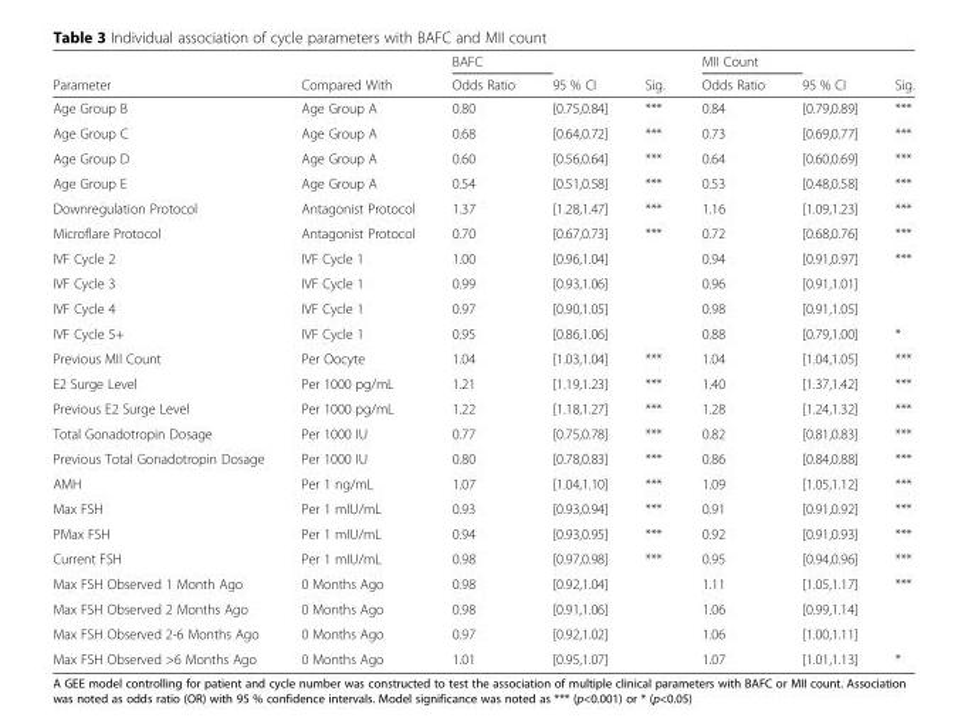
<table><thead><tr><td rowspan="2">Parameter</td><td rowspan="2">Compared With</td><td rowspan="2">BAFC Odds Ratio</td><td rowspan="2">95 % CI</td><td rowspan="2">Sig.</td><td rowspan="2">MII Count Odds Ratio</td><td rowspan="2">95 % CI</td><td rowspan="2">Sig.</td></tr><tr></tr></thead><tbody><tr><td>Age Group B</td><td>Age Group A</td><td>0.80</td><td>[0.75,0.84]</td><td>***</td><td>0.84</td><td>[0.79,0.89]</td><td>***</td></tr><tr><td>Age Group C</td><td>Age Group A</td><td>0.68</td><td>[0.64,0.72]</td><td>***</td><td>0.73</td><td>[0.69,0.77]</td><td>***</td></tr><tr><td>Age Group D</td><td>Age Group A</td><td>0.60</td><td>[0.56,0.64]</td><td>***</td><td>0.64</td><td>[0.60,0.69]</td><td>***</td></tr><tr><td>Age Group E</td><td>Age Group A</td><td>0.54</td><td>[0.51,0.58]</td><td>***</td><td>0.53</td><td>[0.48,0.58]</td><td>***</td></tr><tr><td>Downregulation Protocol</td><td>Antagonist Protocol</td><td>1.37</td><td>[1.28,1.47]</td><td>***</td><td>1.16</td><td>[1.09,1.23]</td><td>***</td></tr><tr><td>Microflare Protocol</td><td>Antagonist Protocol</td><td>0.70</td><td>[0.67,0.73]</td><td>***</td><td>0.72</td><td>[0.68,0.76]</td><td>***</td></tr><tr><td>IVF Cycle 2</td><td>IVF Cycle 1</td><td>1.00</td><td>[0.96,1.04]</td><td></td><td>0.94</td><td>[0.91,0.97]</td><td>***</td></tr><tr><td>IVF Cycle 3</td><td>IVF Cycle 1</td><td>0.99</td><td>[0.93,1.06]</td><td></td><td>0.96</td><td>[0.91,1.01]</td><td></td></tr><tr><td>IVF Cycle 4</td><td>IVF Cycle 1</td><td>0.97</td><td>[0.90,1.05]</td><td></td><td>0.98</td><td>[0.91,1.05]</td><td></td></tr><tr><td>IVF Cycle 5+</td><td>IVF Cycle 1</td><td>0.95</td><td>[0.86,1.06]</td><td></td><td>0.88</td><td>[0.79,1.00]</td><td>*</td></tr><tr><td>Previous MII Count</td><td>Per Oocyte</td><td>1.04</td><td>[1.03,1.04]</td><td>***</td><td>1.04</td><td>[1.04,1.05]</td><td>***</td></tr><tr><td>E2 Surge Level</td><td>Per 1000 pg/mL</td><td>1.21</td><td>[1.19,1.23]</td><td>***</td><td>1.40</td><td>[1.37,1.42]</td><td>***</td></tr><tr><td>Previous E2 Surge Level</td><td>Per 1000 pg/mL</td><td>1.22</td><td>[1.18,1.27]</td><td>***</td><td>1.28</td><td>[1.24,1.32]</td><td>***</td></tr><tr><td>Total Gonadotropin Dosage</td><td>Per 1000 IU</td><td>0.77</td><td>[0.75,0.78]</td><td>***</td><td>0.82</td><td>[0.81,0.83]</td><td>***</td></tr><tr><td>Previous Total Gonadotropin Dosage</td><td>Per 1000 IU</td><td>0.80</td><td>[0.78,0.83]</td><td>***</td><td>0.86</td><td>[0.84,0.88]</td><td>***</td></tr><tr><td>AMH</td><td>Per 1 ng/mL</td><td>1.07</td><td>[1.04,1.10]</td><td>***</td><td>1.09</td><td>[1.05,1.12]</td><td>***</td></tr><tr><td>Max FSH</td><td>Per 1 mIU/mL</td><td>0.93</td><td>[0.93,0.94]</td><td>***</td><td>0.91</td><td>[0.91,0.92]</td><td>***</td></tr><tr><td>PMax FSH</td><td>Per 1 mIU/mL</td><td>0.94</td><td>[0.93,0.95]</td><td>***</td><td>0.92</td><td>[0.91,0.93]</td><td>***</td></tr><tr><td>Current FSH</td><td>Per 1 mIU/mL</td><td>0.98</td><td>[0.97,0.98]</td><td>***</td><td>0.95</td><td>[0.94,0.96]</td><td>***</td></tr><tr><td>Max FSH Observed 1 Month Ago</td><td>0 Months Ago</td><td>0.98</td><td>[0.92,1.04]</td><td></td><td>1.11</td><td>[1.05,1.17]</td><td>***</td></tr><tr><td>Max FSH Observed 2 Months Ago</td><td>0 Months Ago</td><td>0.98</td><td>[0.91,1.06]</td><td></td><td>1.06</td><td>[0.99,1.14]</td><td></td></tr><tr><td>Max FSH Observed 2-6 Months Ago</td><td>0 Months Ago</td><td>0.97</td><td>[0.92,1.02]</td><td></td><td>1.06</td><td>[1.00,1.11]</td><td></td></tr><tr><td>Max FSH Observed &gt;6 Months Ago</td><td>0 Months Ago</td><td>1.01</td><td>[0.95,1.07]</td><td></td><td>1.07</td><td>[1.01,1.13]</td><td>*</td></tr></tbody></table>